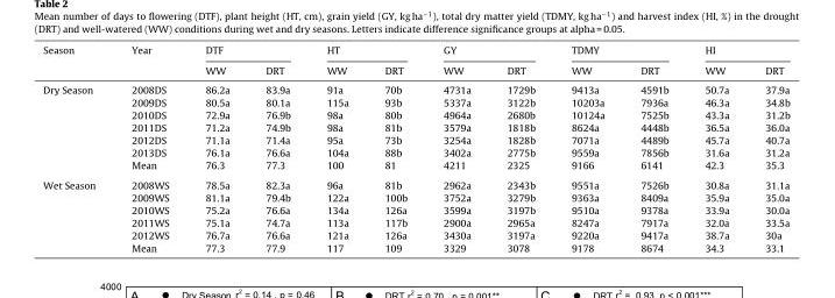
<table><thead><tr><td rowspan="2">Season</td><td rowspan="2">Year</td><td colspan="2">DTF</td><td colspan="2">HT</td><td colspan="2">GY</td><td colspan="2">TDMY</td><td colspan="2">HI</td></tr><tr><td>WW</td><td>DRT</td><td>WW</td><td>DRT</td><td>WW</td><td>DRT</td><td>WW</td><td>DRT</td><td>WW</td><td>DRT</td></tr></thead><tbody><tr><td rowspan="7">Dry Season</td><td>2008DS</td><td>86.2a</td><td>83.9a</td><td>91a</td><td>70b</td><td>4731a</td><td>1729b</td><td>9413a</td><td>4591b</td><td>50.7a</td><td>37.9a</td></tr><tr><td>2009DS</td><td>80.5a</td><td>80.1a</td><td>115a</td><td>93b</td><td>5337a</td><td>3122b</td><td>10203a</td><td>7936a</td><td>46.3a</td><td>34.8b</td></tr><tr><td>2010DS</td><td>72.9a</td><td>76.9b</td><td>98a</td><td>80b</td><td>4964a</td><td>2680b</td><td>10124a</td><td>7525b</td><td>43.3a</td><td>31.2b</td></tr><tr><td>2011DS</td><td>71.2a</td><td>74.9b</td><td>98a</td><td>81b</td><td>3579a</td><td>1818b</td><td>8624a</td><td>4448b</td><td>36.5a</td><td>36.0a</td></tr><tr><td>2012DS</td><td>71.1a</td><td>71.4a</td><td>95a</td><td>73b</td><td>3254a</td><td>1828b</td><td>7071a</td><td>4489b</td><td>45.7a</td><td>40.7a</td></tr><tr><td>2013DS</td><td>76.1a</td><td>76.6a</td><td>104a</td><td>88b</td><td>3402a</td><td>2775b</td><td>9559a</td><td>7856b</td><td>31.6a</td><td>31.2a</td></tr><tr><td>Mean</td><td>76.3</td><td>77.3</td><td>100</td><td>81</td><td>4211</td><td>2325</td><td>9166</td><td>6141</td><td>42.3</td><td>35.3</td></tr><tr><td rowspan="6">Wet Season</td><td>2008WS</td><td>78.5a</td><td>82.3a</td><td>96a</td><td>81b</td><td>2962a</td><td>2343b</td><td>9551a</td><td>7526b</td><td>30.8a</td><td>31.1a</td></tr><tr><td>2009WS</td><td>81.1a</td><td>79.4b</td><td>122a</td><td>100b</td><td>3752a</td><td>3279b</td><td>9363a</td><td>8409a</td><td>35.9a</td><td>35.0a</td></tr><tr><td>2010WS</td><td>75.2a</td><td>76.6a</td><td>134a</td><td>126a</td><td>3599a</td><td>3197b</td><td>9510a</td><td>9378a</td><td>33.9a</td><td>30.0a</td></tr><tr><td>2011WS</td><td>75.1a</td><td>74.7a</td><td>113a</td><td>117b</td><td>2900a</td><td>2965a</td><td>8247a</td><td>7917a</td><td>32.0a</td><td>33.5a</td></tr><tr><td>2012WS</td><td>76.7a</td><td>76.6a</td><td>121a</td><td>126a</td><td>3430a</td><td>3197a</td><td>9220a</td><td>9417a</td><td>38.7a</td><td>30a</td></tr><tr><td>Mean</td><td>77.3</td><td>77.9</td><td>117</td><td>109</td><td>3329</td><td>3078</td><td>9178</td><td>8674</td><td>34.3</td><td>33.1</td></tr></tbody></table>